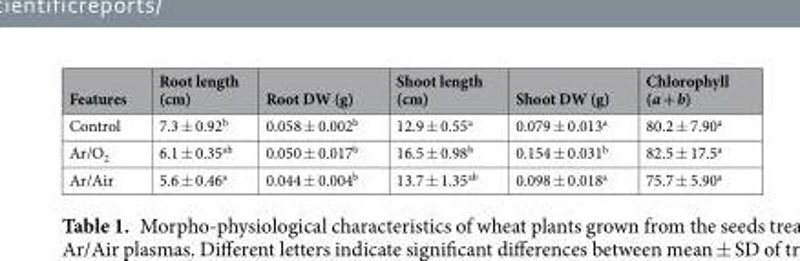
<table><thead><tr><td>Features</td><td>Root length (cm)</td><td>Root DW (g)</td><td>Shoot length (cm)</td><td>Shoot DW (g)</td><td>Chlorophyll (a + b)</td></tr></thead><tbody><tr><td>Control</td><td>7.3 ± 0.92<sup>b</sup></td><td>0.058 ± 0.002<sup>b</sup></td><td>12.9 ± 0.55<sup>a</sup></td><td>0.079 ± 0.013<sup>a</sup></td><td>80.2 ± 7.90<sup>a</sup></td></tr><tr><td>Ar/O<sub>2</sub></td><td>6.1 ± 0.35<sup>ab</sup></td><td>0.050 ± 0.017<sup>b</sup></td><td>16.5 ± 0.98<sup>b</sup></td><td>0.154 ± 0.031<sup>b</sup></td><td>82.5 ± 17.5<sup>a</sup></td></tr><tr><td>Ar/Air</td><td>5.6 ± 0.46<sup>a</sup></td><td>0.044 ± 0.004<sup>b</sup></td><td>13.7 ± 1.35<sup>ab</sup></td><td>0.098 ± 0.018<sup>a</sup></td><td>75.7 ± 5.90<sup>a</sup></td></tr></tbody></table>